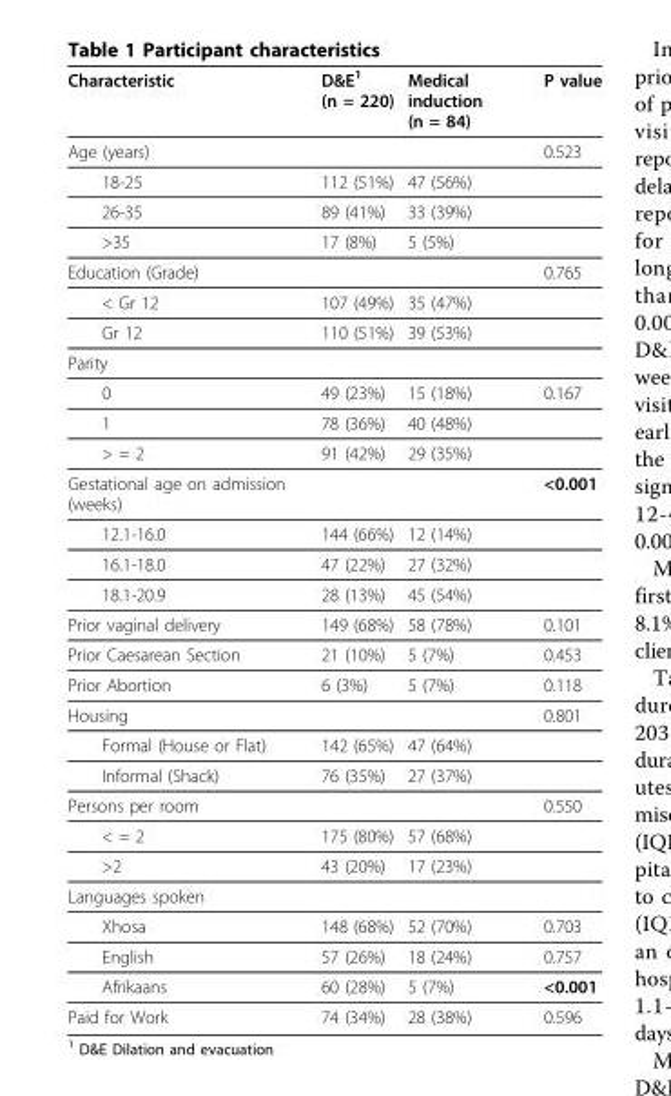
<table><thead><tr><td>Characteristic</td><td>D&amp;E<sup>1</sup> (n = 220)</td><td>Medical induction (n = 84)</td><td>P value</td></tr></thead><tbody><tr><td>Age (years)</td><td></td><td></td><td>0.523</td></tr><tr><td>18-25</td><td>112 (51%)</td><td>47 (56%)</td><td></td></tr><tr><td>26-35</td><td>89 (41%)</td><td>33 (39%)</td><td></td></tr><tr><td>&gt;35</td><td>17 (8%)</td><td>5 (5%)</td><td></td></tr><tr><td>Education (Grade)</td><td></td><td></td><td>0.765</td></tr><tr><td>&lt; Gr 12</td><td>107 (49%)</td><td>35 (47%)</td><td></td></tr><tr><td>Gr 12</td><td>110 (51%)</td><td>39 (53%)</td><td></td></tr><tr><td colspan="4">Parity</td></tr><tr><td>0</td><td>49 (23%)</td><td>15 (18%)</td><td>0.167</td></tr><tr><td>1</td><td>78 (36%)</td><td>40 (48%)</td><td></td></tr><tr><td>&gt; = 2</td><td>91 (42%)</td><td>29 (35%)</td><td></td></tr><tr><td>Gestational age on admission (weeks)</td><td></td><td></td><td>&lt;0.001</td></tr><tr><td>12.1-16.0</td><td>144 (66%)</td><td>12 (14%)</td><td></td></tr><tr><td>16.1-18.0</td><td>47 (22%)</td><td>27 (32%)</td><td></td></tr><tr><td>18.1-20.9</td><td>28 (13%)</td><td>45 (54%)</td><td></td></tr><tr><td>Prior vaginal delivery</td><td>149 (68%)</td><td>58 (78%)</td><td>0.101</td></tr><tr><td>Prior Caesarean Section</td><td>21 (10%)</td><td>5 (7%)</td><td>0.453</td></tr><tr><td>Prior Abortion</td><td>6 (3%)</td><td>5 (7%)</td><td>0.118</td></tr><tr><td>Housing</td><td></td><td></td><td>0.801</td></tr><tr><td>Formal (House or Flat)</td><td>142 (65%)</td><td>47 (64%)</td><td></td></tr><tr><td>Informal (Shack)</td><td>76 (35%)</td><td>27 (37%)</td><td></td></tr><tr><td>Persons per room</td><td></td><td></td><td>0.550</td></tr><tr><td>&lt; = 2</td><td>175 (80%)</td><td>57 (68%)</td><td></td></tr><tr><td>&gt;2</td><td>43 (20%)</td><td>17 (23%)</td><td></td></tr><tr><td colspan="4">Languages spoken</td></tr><tr><td>Xhosa</td><td>148 (68%)</td><td>52 (70%)</td><td>0.703</td></tr><tr><td>English</td><td>57 (26%)</td><td>18 (24%)</td><td>0.757</td></tr><tr><td>Afrikaans</td><td>60 (28%)</td><td>5 (7%)</td><td>&lt;0.001</td></tr><tr><td>Paid for Work</td><td>74 (34%)</td><td>28 (38%)</td><td>0.596</td></tr></tbody></table>